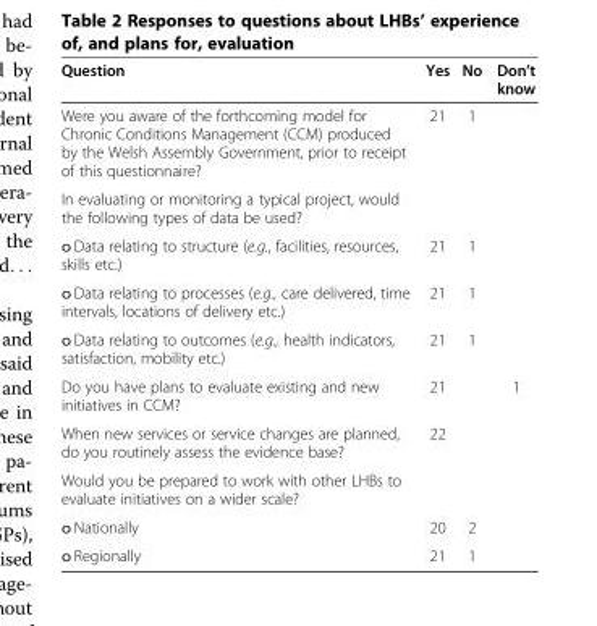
<table><thead><tr><td>Question</td><td>Yes</td><td>No</td><td>Don’t know</td></tr></thead><tbody><tr><td>Were you aware of the forthcoming model for Chronic Conditions Management (CCM) produced by the Welsh Assembly Government, prior to receipt of this questionnaire?</td><td>21</td><td>1</td><td></td></tr><tr><td colspan="4">In evaluating or monitoring a typical project, would the following types of data be used?</td></tr><tr><td>o Data relating to structure (e.g., facilities, resources, skills etc.)</td><td>21</td><td>1</td><td></td></tr><tr><td>o Data relating to processes (e.g., care delivered, time intervals, locations of delivery etc.)</td><td>21</td><td>1</td><td></td></tr><tr><td>o Data relating to outcomes (e.g., health indicators, satisfaction, mobility etc.)</td><td>21</td><td>1</td><td></td></tr><tr><td>Do you have plans to evaluate existing and new initiatives in CCM?</td><td>21</td><td></td><td>1</td></tr><tr><td>When new services or service changes are planned, do you routinely assess the evidence base?</td><td>22</td><td></td><td></td></tr><tr><td colspan="4">Would you be prepared to work with other LHBs to evaluate initiatives on a wider scale?</td></tr><tr><td>o Nationally</td><td>20</td><td>2</td><td></td></tr><tr><td>o Regionally</td><td>21</td><td>1</td><td></td></tr></tbody></table>